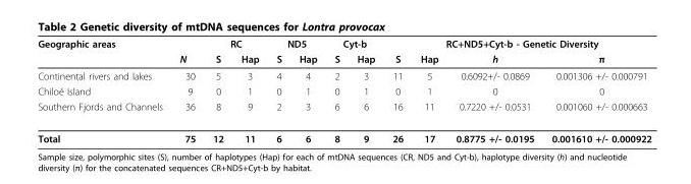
<table><thead><tr><td rowspan="2">Geographic areas</td><td rowspan="2">N</td><td colspan="2">RC</td><td colspan="2">ND5</td><td colspan="2">Cyt-b</td><td colspan="4">RC+ND5+Cyt-b - Genetic Diversity</td></tr><tr><td>S</td><td>Hap</td><td>S</td><td>Hap</td><td>S</td><td>Hap</td><td>S</td><td>Hap</td><td>h</td><td>π</td></tr></thead><tbody><tr><td>Continental rivers and lakes</td><td>30</td><td>5</td><td>3</td><td>4</td><td>4</td><td>2</td><td>3</td><td>11</td><td>5</td><td>0.6092+/- 0.0869</td><td>0.001306 +/- 0.000791</td></tr><tr><td>Chiloé Island</td><td>9</td><td>0</td><td>1</td><td>0</td><td>1</td><td>0</td><td>1</td><td>0</td><td>1</td><td>0</td><td>0</td></tr><tr><td>Southern Fjords and Channels</td><td>36</td><td>8</td><td>9</td><td>2</td><td>3</td><td>6</td><td>6</td><td>16</td><td>11</td><td>0.7220 +/- 0.0531</td><td>0.001060 +/- 0.000663</td></tr><tr><td>Total</td><td>75</td><td>12</td><td>11</td><td>6</td><td>6</td><td>8</td><td>9</td><td>26</td><td>17</td><td>0.8775 +/- 0.0195</td><td>0.001610 +/- 0.000922</td></tr></tbody></table>